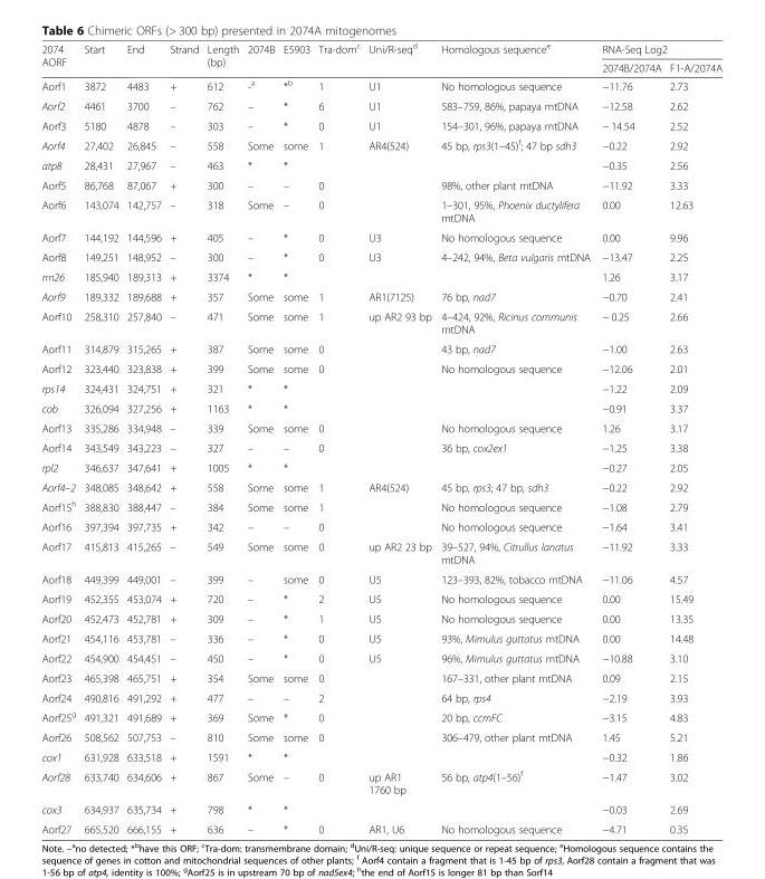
<table><thead><tr><td rowspan="2">2074 AORF</td><td rowspan="2">Start</td><td rowspan="2">End</td><td rowspan="2">Strand</td><td rowspan="2">Length (bp)</td><td rowspan="2">2074B</td><td rowspan="2">E5903</td><td rowspan="2">Tra-dom<sup>c</sup></td><td rowspan="2">Uni/R-seq<sup>d</sup></td><td rowspan="2">Homologous sequence<sup>e</sup></td><td colspan="2">RNA-Seq Log2</td></tr><tr><td>2074B/2074A</td><td>F1-A/2074A</td></tr></thead><tbody><tr><td>Aorf1</td><td>3872</td><td>4483</td><td>+</td><td>612</td><td>-<sup>a</sup></td><td>*<sup>b</sup></td><td>1</td><td>U1</td><td>No homologous sequence</td><td>−11.76</td><td>2.73</td></tr><tr><td>Aorf2</td><td>4461</td><td>3700</td><td>–</td><td>762</td><td>–</td><td>*</td><td>6</td><td>U1</td><td>583–759, 86%, papaya mtDNA</td><td>−12.58</td><td>2.62</td></tr><tr><td>Aorf3</td><td>5180</td><td>4878</td><td>–</td><td>303</td><td>–</td><td>*</td><td>0</td><td>U1</td><td>154–301, 96%, papaya mtDNA</td><td>− 14.54</td><td>2.52</td></tr><tr><td>Aorf4</td><td>27,402</td><td>26,845</td><td>–</td><td>558</td><td>Some</td><td>some</td><td>1</td><td>AR4(524)</td><td>45 bp, rps3(1–45)<sup>f</sup>; 47 bp sdh3</td><td>−0.22</td><td>2.92</td></tr><tr><td>atp8</td><td>28,431</td><td>27,967</td><td>–</td><td>463</td><td>*</td><td>*</td><td></td><td></td><td></td><td>−0.35</td><td>2.56</td></tr><tr><td>Aorf5</td><td>86,768</td><td>87,067</td><td>+</td><td>300</td><td>–</td><td>–</td><td>0</td><td></td><td>98%, other plant mtDNA</td><td>−11.92</td><td>3.33</td></tr><tr><td>Aorf6</td><td>143,074</td><td>142,757</td><td>–</td><td>318</td><td>Some</td><td>–</td><td>0</td><td></td><td>1–301, 95%, Phoenix ductylifera mtDNA</td><td>0.00</td><td>12.63</td></tr><tr><td>Aorf7</td><td>144,192</td><td>144,596</td><td>+</td><td>405</td><td>–</td><td>*</td><td>0</td><td>U3</td><td>No homologous sequence</td><td>0.00</td><td>9.96</td></tr><tr><td>Aorf8</td><td>149,251</td><td>148,952</td><td>–</td><td>300</td><td>–</td><td>*</td><td>0</td><td>U3</td><td>4–242, 94%, Beta vulgaris mtDNA</td><td>−13.47</td><td>2.25</td></tr><tr><td>rrn26</td><td>185,940</td><td>189,313</td><td>+</td><td>3374</td><td>*</td><td>*</td><td></td><td></td><td></td><td>1.26</td><td>3.17</td></tr><tr><td>Aorf9</td><td>189,332</td><td>189,688</td><td>+</td><td>357</td><td>Some</td><td>some</td><td>1</td><td>AR1(7125)</td><td>76 bp, nad7</td><td>−0.70</td><td>2.41</td></tr><tr><td>Aorf10</td><td>258,310</td><td>257,840</td><td>–</td><td>471</td><td>Some</td><td>some</td><td>1</td><td>up AR2 93 bp</td><td>4–424, 92%, Ricinus communis mtDNA</td><td>− 0.25</td><td>2.66</td></tr><tr><td>Aorf11</td><td>314,879</td><td>315,265</td><td>+</td><td>387</td><td>Some</td><td>some</td><td>0</td><td></td><td>43 bp, nad7</td><td>−1.00</td><td>2.63</td></tr><tr><td>Aorf12</td><td>323,440</td><td>323,838</td><td>+</td><td>399</td><td>Some</td><td>some</td><td>0</td><td></td><td>No homologous sequence</td><td>−12.06</td><td>2.01</td></tr><tr><td>rps14</td><td>324,431</td><td>324,751</td><td>+</td><td>321</td><td>*</td><td>*</td><td></td><td></td><td></td><td>−1.22</td><td>2.09</td></tr><tr><td>cob</td><td>326,094</td><td>327,256</td><td>+</td><td>1163</td><td>*</td><td>*</td><td></td><td></td><td></td><td>−0.91</td><td>3.37</td></tr><tr><td>Aorf13</td><td>335,286</td><td>334,948</td><td>–</td><td>339</td><td>Some</td><td>some</td><td>0</td><td></td><td>No homologous sequence</td><td>1.26</td><td>3.17</td></tr><tr><td>Aorf14</td><td>343,549</td><td>343,223</td><td>–</td><td>327</td><td>–</td><td>–</td><td>0</td><td></td><td>36 bp, cox2ex1</td><td>−1.25</td><td>3.38</td></tr><tr><td>rpl2</td><td>346,637</td><td>347,641</td><td>+</td><td>1005</td><td>*</td><td>*</td><td></td><td></td><td></td><td>−0.27</td><td>2.05</td></tr><tr><td>Aorf4–2</td><td>348,085</td><td>348,642</td><td>+</td><td>558</td><td>Some</td><td>some</td><td>1</td><td>AR4(524)</td><td>45 bp, rps3; 47 bp, sdh3</td><td>−0.22</td><td>2.92</td></tr><tr><td>Aorf15<sup>h</sup></td><td>388,830</td><td>388,447</td><td>–</td><td>384</td><td>Some</td><td>some</td><td>1</td><td></td><td>No homologous sequence</td><td>−1.08</td><td>2.79</td></tr><tr><td>Aorf16</td><td>397,394</td><td>397,735</td><td>+</td><td>342</td><td>–</td><td>–</td><td>0</td><td></td><td>No homologous sequence</td><td>−1.64</td><td>3.41</td></tr><tr><td>Aorf17</td><td>415,813</td><td>415,265</td><td>–</td><td>549</td><td>Some</td><td>some</td><td>0</td><td>up AR2 23 bp</td><td>39–527, 94%, Citrullus lanatus mtDNA</td><td>−11.92</td><td>3.33</td></tr><tr><td>Aorf18</td><td>449,399</td><td>449,001</td><td>–</td><td>399</td><td>–</td><td>some</td><td>0</td><td>U5</td><td>123–393, 82%, tobacco mtDNA</td><td>−11.06</td><td>4.57</td></tr><tr><td>Aorf19</td><td>452,355</td><td>453,074</td><td>+</td><td>720</td><td>–</td><td>*</td><td>2</td><td>U5</td><td>No homologous sequence</td><td>0.00</td><td>15.49</td></tr><tr><td>Aorf20</td><td>452,473</td><td>452,781</td><td>+</td><td>309</td><td>–</td><td>*</td><td>1</td><td>U5</td><td>No homologous sequence</td><td>0.00</td><td>13.35</td></tr><tr><td>Aorf21</td><td>454,116</td><td>453,781</td><td>–</td><td>336</td><td>–</td><td>*</td><td>0</td><td>U5</td><td>93%, Mimulus guttatus mtDNA</td><td>0.00</td><td>14.48</td></tr><tr><td>Aorf22</td><td>454,900</td><td>454,451</td><td>–</td><td>450</td><td>–</td><td>*</td><td>0</td><td>U5</td><td>96%, Mimulus guttatus mtDNA</td><td>−10.88</td><td>3.10</td></tr><tr><td>Aorf23</td><td>465,398</td><td>465,751</td><td>+</td><td>354</td><td>Some</td><td>some</td><td>0</td><td></td><td>167–331, other plant mtDNA</td><td>0.09</td><td>2.15</td></tr><tr><td>Aorf24</td><td>490,816</td><td>491,292</td><td>+</td><td>477</td><td>–</td><td>–</td><td>2</td><td></td><td>64 bp, rps4</td><td>−2.19</td><td>3.93</td></tr><tr><td>Aorf25<sup>g</sup></td><td>491,321</td><td>491,689</td><td>+</td><td>369</td><td>Some</td><td>*</td><td>0</td><td></td><td>20 bp, ccmFC</td><td>−3.15</td><td>4.83</td></tr><tr><td>Aorf26</td><td>508,562</td><td>507,753</td><td>–</td><td>810</td><td>Some</td><td>some</td><td>0</td><td></td><td>306–479, other plant mtDNA</td><td>1.45</td><td>5.21</td></tr><tr><td>cox1</td><td>631,928</td><td>633,518</td><td>+</td><td>1591</td><td>*</td><td>*</td><td></td><td></td><td></td><td>−0.32</td><td>1.86</td></tr><tr><td>Aorf28</td><td>633,740</td><td>634,606</td><td>+</td><td>867</td><td>Some</td><td>–</td><td>0</td><td>up AR1 1760 bp</td><td>56 bp, atp4(1–56)<sup>f</sup></td><td>−1.47</td><td>3.02</td></tr><tr><td>cox3</td><td>634,937</td><td>635,734</td><td>+</td><td>798</td><td>*</td><td>*</td><td></td><td></td><td></td><td>−0.03</td><td>2.69</td></tr><tr><td>Aorf27</td><td>665,520</td><td>666,155</td><td>+</td><td>636</td><td>–</td><td>*</td><td>0</td><td>AR1, U6</td><td>No homologous sequence</td><td>−4.71</td><td>0.35</td></tr></tbody></table>